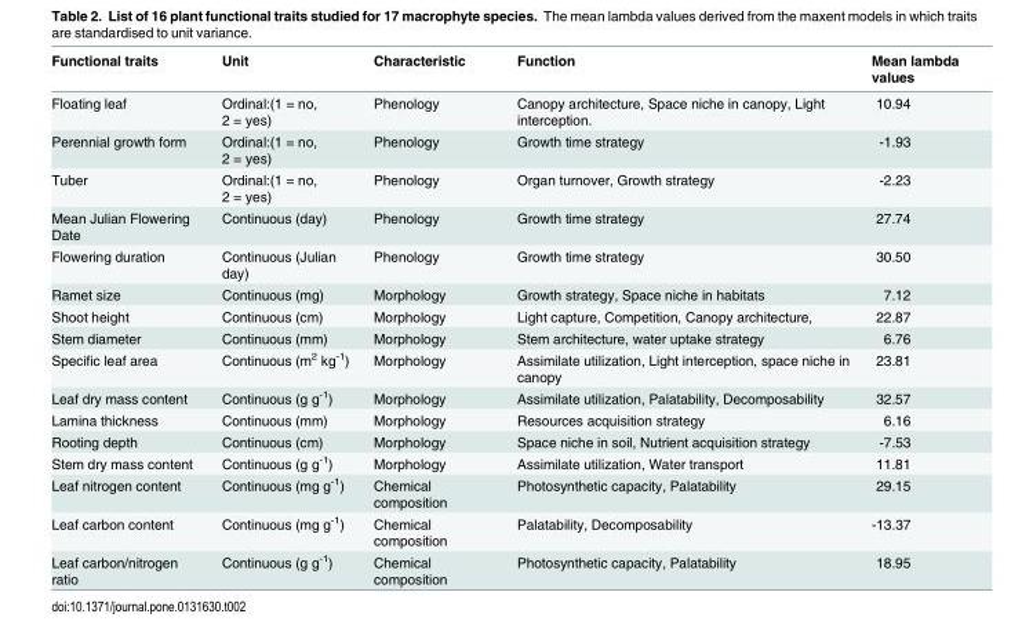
<table><thead><tr><td>Functional traits</td><td>Unit</td><td>Characteristic</td><td>Function</td><td>Mean lambda values</td></tr></thead><tbody><tr><td>Floating leaf</td><td>Ordinal:(1 = no, 2 = yes)</td><td>Phenology</td><td>Canopy architecture, Space niche in canopy, Light interception.</td><td>10.94</td></tr><tr><td>Perennial growth form</td><td>Ordinal:(1 = no, 2 = yes)</td><td>Phenology</td><td>Growth time strategy</td><td>-1.93</td></tr><tr><td>Tuber</td><td>Ordinal:(1 = no, 2 = yes)</td><td>Phenology</td><td>Organ turnover, Growth strategy</td><td>-2.23</td></tr><tr><td>Mean Julian Flowering Date</td><td>Continuous (day)</td><td>Phenology</td><td>Growth time strategy</td><td>27.74</td></tr><tr><td>Flowering duration</td><td>Continuous (Julian day)</td><td>Phenology</td><td>Growth time strategy</td><td>30.50</td></tr><tr><td>Ramet size</td><td>Continuous (mg)</td><td>Morphology</td><td>Growth strategy, Space niche in habitats</td><td>7.12</td></tr><tr><td>Shoot height</td><td>Continuous (cm)</td><td>Morphology</td><td>Light capture, Competition, Canopy architecture,</td><td>22.87</td></tr><tr><td>Stem diameter</td><td>Continuous (mm)</td><td>Morphology</td><td>Stem architecture, water uptake strategy</td><td>6.76</td></tr><tr><td>Specific leaf area</td><td>Continuous (m<sup>2</sup> kg<sup>-1</sup>)</td><td>Morphology</td><td>Assimilate utilization, Light interception, space niche in canopy</td><td>23.81</td></tr><tr><td>Leaf dry mass content</td><td>Continuous (g g<sup>-1</sup>)</td><td>Morphology</td><td>Assimilate utilization, Palatability, Decomposability</td><td>32.57</td></tr><tr><td>Lamina thickness</td><td>Continuous (mm)</td><td>Morphology</td><td>Resources acquisition strategy</td><td>6.16</td></tr><tr><td>Rooting depth</td><td>Continuous (cm)</td><td>Morphology</td><td>Space niche in soil, Nutrient acquisition strategy</td><td>-7.53</td></tr><tr><td>Stem dry mass content</td><td>Continuous (g g<sup>-1</sup>)</td><td>Morphology</td><td>Assimilate utilization, Water transport</td><td>11.81</td></tr><tr><td>Leaf nitrogen content</td><td>Continuous (mg g<sup>-1</sup>)</td><td>Chemical composition</td><td>Photosynthetic capacity, Palatability</td><td>29.15</td></tr><tr><td>Leaf carbon content</td><td>Continuous (mg g<sup>-1</sup>)</td><td>Chemical composition</td><td>Palatability, Decomposability</td><td>-13.37</td></tr><tr><td>Leaf carbon/nitrogen ratio</td><td>Continuous (g g<sup>-1</sup>)</td><td>Chemical composition</td><td>Photosynthetic capacity, Palatability</td><td>18.95</td></tr></tbody></table>